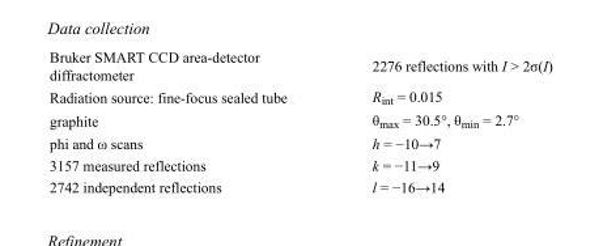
<table><tbody><tr><td>Bruker SMART CCD area-detector diffractometer</td><td>2276 reflections with I &gt; 2σ(I)</td></tr><tr><td>Radiation source: fine-focus sealed tube</td><td>R<sub>int</sub> = 0.015</td></tr><tr><td>graphite</td><td>θ<sub>max</sub> = 30.5°, θ<sub>min</sub> = 2.7°</td></tr><tr><td>phi and ω scans</td><td>h = −10→7</td></tr><tr><td>3157 measured reflections</td><td>k = −11→9</td></tr><tr><td>2742 independent reflections</td><td>l = −16→14</td></tr></tbody></table>